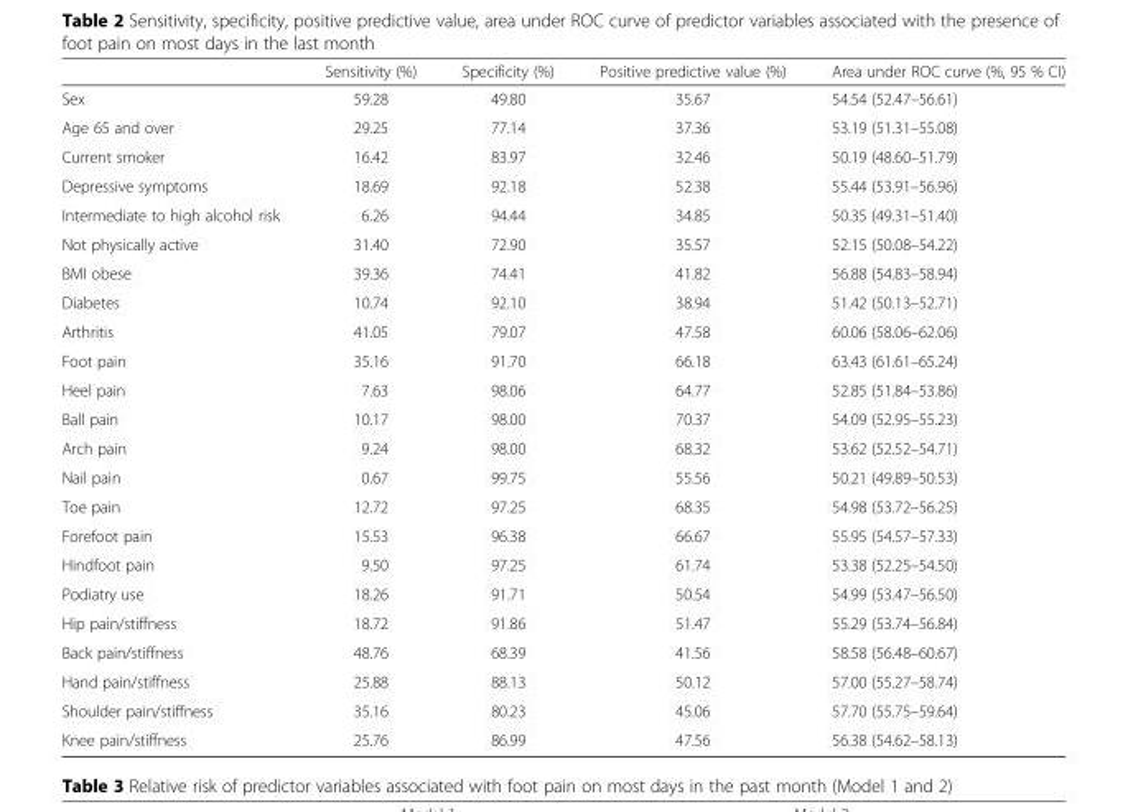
<table><thead><tr><td></td><td>Sensitivity (%)</td><td>Specificity (%)</td><td>Positive predictive value (%)</td><td>Area under ROC curve (%, 95 % CI)</td></tr></thead><tbody><tr><td>Sex</td><td>59.28</td><td>49.80</td><td>35.67</td><td>54.54 (52.47–56.61)</td></tr><tr><td>Age 65 and over</td><td>29.25</td><td>77.14</td><td>37.36</td><td>53.19 (51.31–55.08)</td></tr><tr><td>Current smoker</td><td>16.42</td><td>83.97</td><td>32.46</td><td>50.19 (48.60–51.79)</td></tr><tr><td>Depressive symptoms</td><td>18.69</td><td>92.18</td><td>52.38</td><td>55.44 (53.91–56.96)</td></tr><tr><td>Intermediate to high alcohol risk</td><td>6.26</td><td>94.44</td><td>34.85</td><td>50.35 (49.31–51.40)</td></tr><tr><td>Not physically active</td><td>31.40</td><td>72.90</td><td>35.57</td><td>52.15 (50.08–54.22)</td></tr><tr><td>BMI obese</td><td>39.36</td><td>74.41</td><td>41.82</td><td>56.88 (54.83–58.94)</td></tr><tr><td>Diabetes</td><td>10.74</td><td>92.10</td><td>38.94</td><td>51.42 (50.13–52.71)</td></tr><tr><td>Arthritis</td><td>41.05</td><td>79.07</td><td>47.58</td><td>60.06 (58.06–62.06)</td></tr><tr><td>Foot pain</td><td>35.16</td><td>91.70</td><td>66.18</td><td>63.43 (61.61–65.24)</td></tr><tr><td>Heel pain</td><td>7.63</td><td>98.06</td><td>64.77</td><td>52.85 (51.84–53.86)</td></tr><tr><td>Ball pain</td><td>10.17</td><td>98.00</td><td>70.37</td><td>54.09 (52.95–55.23)</td></tr><tr><td>Arch pain</td><td>9.24</td><td>98.00</td><td>68.32</td><td>53.62 (52.52–54.71)</td></tr><tr><td>Nail pain</td><td>0.67</td><td>99.75</td><td>55.56</td><td>50.21 (49.89–50.53)</td></tr><tr><td>Toe pain</td><td>12.72</td><td>97.25</td><td>68.35</td><td>54.98 (53.72–56.25)</td></tr><tr><td>Forefoot pain</td><td>15.53</td><td>96.38</td><td>66.67</td><td>55.95 (54.57–57.33)</td></tr><tr><td>Hindfoot pain</td><td>9.50</td><td>97.25</td><td>61.74</td><td>53.38 (52.25–54.50)</td></tr><tr><td>Podiatry use</td><td>18.26</td><td>91.71</td><td>50.54</td><td>54.99 (53.47–56.50)</td></tr><tr><td>Hip pain/stiffness</td><td>18.72</td><td>91.86</td><td>51.47</td><td>55.29 (53.74–56.84)</td></tr><tr><td>Back pain/stiffness</td><td>48.76</td><td>68.39</td><td>41.56</td><td>58.58 (56.48–60.67)</td></tr><tr><td>Hand pain/stiffness</td><td>25.88</td><td>88.13</td><td>50.12</td><td>57.00 (55.27–58.74)</td></tr><tr><td>Shoulder pain/stiffness</td><td>35.16</td><td>80.23</td><td>45.06</td><td>57.70 (55.75–59.64)</td></tr><tr><td>Knee pain/stiffness</td><td>25.76</td><td>86.99</td><td>47.56</td><td>56.38 (54.62–58.13)</td></tr></tbody></table>